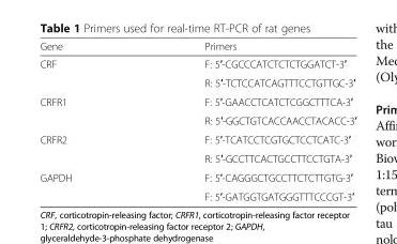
<table><thead><tr><td>Gene</td><td>Primers</td></tr></thead><tbody><tr><td rowspan="2">CRF</td><td>F: 5′-CGCCCATCTCTCTGGATCT-3′</td></tr><tr><td>R: 5′-TCTCCATCAGTTTCCTGTTGC-3′</td></tr><tr><td rowspan="2">CRFR1</td><td>F: 5′-GAACCTCATCTCGGCTTTCA-3′</td></tr><tr><td>R: 5′-GGCTGTCACCAACCTACACC-3′</td></tr><tr><td rowspan="2">CRFR2</td><td>F: 5′-TCATCCTCGTGCTCCTCATC-3′</td></tr><tr><td>R: 5′-GCCTTCACTGCCTTCCTGTA-3′</td></tr><tr><td rowspan="2">GAPDH</td><td>F: 5′-CAGGGCTGCCTTCTCTTGTG-3′</td></tr><tr><td>F: 5′-GATGGTGATGGGTTTCCCGT-3′</td></tr></tbody></table>